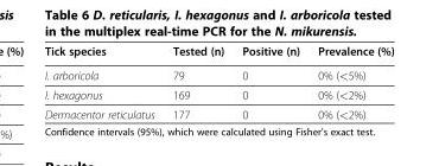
<table><thead><tr><td>Tick species</td><td>Tested (n)</td><td>Positive (n)</td><td>Prevalence (%)</td></tr></thead><tbody><tr><td>I. arboricola</td><td>79</td><td>0</td><td>0% (&lt;5%)</td></tr><tr><td>I. hexagonus</td><td>169</td><td>0</td><td>0% (&lt;2%)</td></tr><tr><td>Dermacentor reticulatus</td><td>177</td><td>0</td><td>0% (&lt;2%)</td></tr></tbody></table>